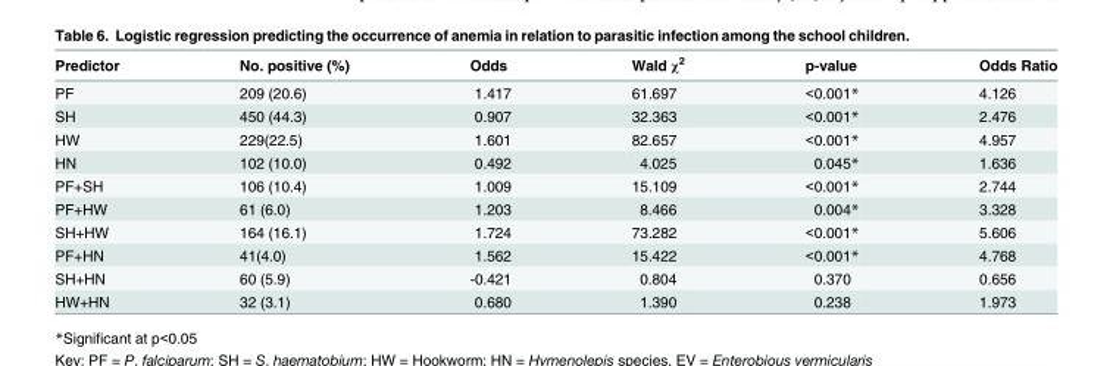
<table><thead><tr><td>Predictor</td><td>No. positive (%)</td><td>Odds</td><td>Wald χ<sup>2</sup></td><td>p-value</td><td>Odds Ratio</td></tr></thead><tbody><tr><td>PF</td><td>209 (20.6)</td><td>1.417</td><td>61.697</td><td>&lt;0.001*</td><td>4.126</td></tr><tr><td>SH</td><td>450 (44.3)</td><td>0.907</td><td>32.363</td><td>&lt;0.001*</td><td>2.476</td></tr><tr><td>HW</td><td>229(22.5)</td><td>1.601</td><td>82.657</td><td>&lt;0.001*</td><td>4.957</td></tr><tr><td>HN</td><td>102 (10.0)</td><td>0.492</td><td>4.025</td><td>0.045*</td><td>1.636</td></tr><tr><td>PF+SH</td><td>106 (10.4)</td><td>1.009</td><td>15.109</td><td>&lt;0.001*</td><td>2.744</td></tr><tr><td>PF+HW</td><td>61 (6.0)</td><td>1.203</td><td>8.466</td><td>0.004*</td><td>3.328</td></tr><tr><td>SH+HW</td><td>164 (16.1)</td><td>1.724</td><td>73.282</td><td>&lt;0.001*</td><td>5.606</td></tr><tr><td>PF+HN</td><td>41(4.0)</td><td>1.562</td><td>15.422</td><td>&lt;0.001*</td><td>4.768</td></tr><tr><td>SH+HN</td><td>60 (5.9)</td><td>-0.421</td><td>0.804</td><td>0.370</td><td>0.656</td></tr><tr><td>HW+HN</td><td>32 (3.1)</td><td>0.680</td><td>1.390</td><td>0.238</td><td>1.973</td></tr></tbody></table>